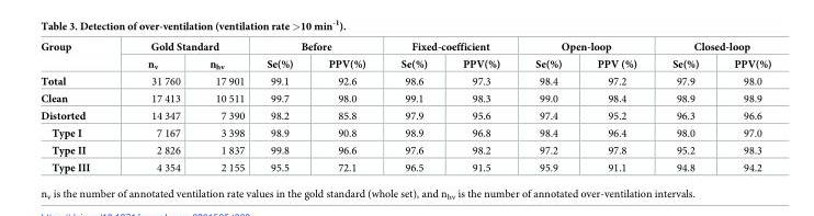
<table><thead><tr><td rowspan="2">Group</td><td colspan="2">Gold Standard</td><td colspan="2">Before</td><td colspan="2">Fixed-coefficient</td><td colspan="2">Open-loop</td><td colspan="2">Closed-loop</td></tr><tr><td>n<sub>v</sub></td><td>n<sub>hv</sub></td><td>Se(%)</td><td>PPV(%)</td><td>Se(%)</td><td>PPV(%)</td><td>Se(%)</td><td>PPV (%)</td><td>Se(%)</td><td>PPV(%)</td></tr></thead><tbody><tr><td>Total</td><td>31 760</td><td>17 901</td><td>99.1</td><td>92.6</td><td>98.6</td><td>97.3</td><td>98.4</td><td>97.2</td><td>97.9</td><td>98.0</td></tr><tr><td>Clean</td><td>17 413</td><td>10 511</td><td>99.7</td><td>98.0</td><td>99.1</td><td>98.3</td><td>99.0</td><td>98.4</td><td>98.9</td><td>98.9</td></tr><tr><td>Distorted</td><td>14 347</td><td>7 390</td><td>98.2</td><td>85.8</td><td>97.9</td><td>95.6</td><td>97.4</td><td>95.2</td><td>96.3</td><td>96.6</td></tr><tr><td>Type I</td><td>7 167</td><td>3 398</td><td>98.9</td><td>90.8</td><td>98.9</td><td>96.8</td><td>98.4</td><td>96.4</td><td>98.0</td><td>97.0</td></tr><tr><td>Type II</td><td>2 826</td><td>1 837</td><td>99.8</td><td>96.6</td><td>97.6</td><td>98.2</td><td>97.2</td><td>97.8</td><td>95.2</td><td>98.3</td></tr><tr><td>Type III</td><td>4 354</td><td>2 155</td><td>95.5</td><td>72.1</td><td>96.5</td><td>91.5</td><td>95.9</td><td>91.1</td><td>94.8</td><td>94.2</td></tr></tbody></table>